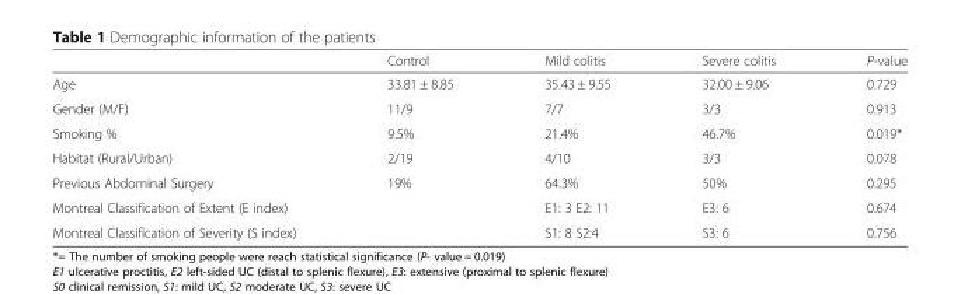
<table><thead><tr><td></td><td>Control</td><td>Mild colitis</td><td>Severe colitis</td><td>P-value</td></tr></thead><tbody><tr><td>Age</td><td>33.81 ± 8.85</td><td>35.43 ± 9.55</td><td>32.00 ± 9.06</td><td>0.729</td></tr><tr><td>Gender (M/F)</td><td>11/9</td><td>7/7</td><td>3/3</td><td>0.913</td></tr><tr><td>Smoking %</td><td>9.5%</td><td>21.4%</td><td>46.7%</td><td>0.019*</td></tr><tr><td>Habitat (Rural/Urban)</td><td>2/19</td><td>4/10</td><td>3/3</td><td>0.078</td></tr><tr><td>Previous Abdominal Surgery</td><td>19%</td><td>64.3%</td><td>50%</td><td>0.295</td></tr><tr><td>Montreal Classification of Extent (E index)</td><td></td><td>E1: 3 E2: 11</td><td>E3: 6</td><td>0.674</td></tr><tr><td>Montreal Classification of Severity (S index)</td><td></td><td>S1: 8 S2:4</td><td>S3: 6</td><td>0.756</td></tr></tbody></table>